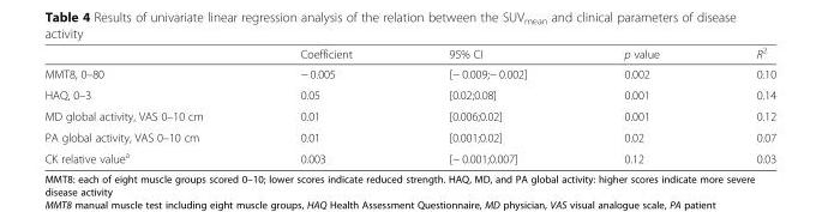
<table><thead><tr><td></td><td>Coefficient</td><td>95% CI</td><td>p value</td><td>R<sup>2</sup></td></tr></thead><tbody><tr><td>MMT8, 0–80</td><td>− 0.005</td><td>[− 0.009;− 0.002]</td><td>0.002</td><td>0.10</td></tr><tr><td>HAQ, 0–3</td><td>0.05</td><td>[0.02;0.08]</td><td>0.001</td><td>0.14</td></tr><tr><td>MD global activity, VAS 0–10 cm</td><td>0.01</td><td>[0.006;0.02]</td><td>0.001</td><td>0.12</td></tr><tr><td>PA global activity, VAS 0–10 cm</td><td>0.01</td><td>[0.001;0.02]</td><td>0.02</td><td>0.07</td></tr><tr><td>CK relative value<sup>a</sup></td><td>0.003</td><td>[− 0.001;0.007]</td><td>0.12</td><td>0.03</td></tr></tbody></table>